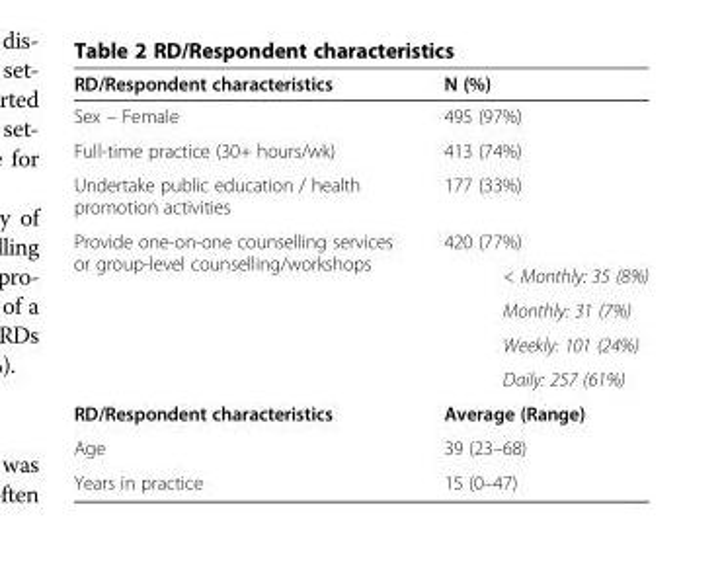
<table><thead><tr><td>RD/Respondent characteristics</td><td>N (%)</td></tr></thead><tbody><tr><td>Sex – Female</td><td>495 (97%)</td></tr><tr><td>Full-time practice (30+ hours/wk)</td><td>413 (74%)</td></tr><tr><td>Undertake public education / health promotion activities</td><td>177 (33%)</td></tr><tr><td rowspan="5">Provide one-on-one counselling services or group-level counselling/workshops</td><td>420 (77%)</td></tr><tr><td>&lt; Monthly: 35 (8%)</td></tr><tr><td>Monthly: 31 (7%)</td></tr><tr><td>Weekly: 101 (24%)</td></tr><tr><td>Daily: 257 (61%)</td></tr><tr><td>RD/Respondent characteristics</td><td>Average (Range)</td></tr><tr><td>Age</td><td>39 (23–68)</td></tr><tr><td>Years in practice</td><td>15 (0–47)</td></tr></tbody></table>